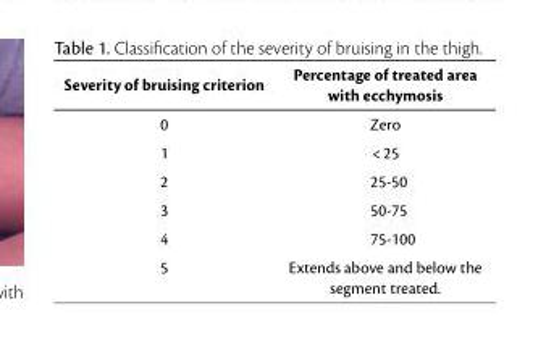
<table><thead><tr><td>Severity of bruising criterion</td><td>Percentage of treated area with ecchymosis</td></tr></thead><tbody><tr><td>0</td><td>Zero</td></tr><tr><td>1</td><td>&lt; 25</td></tr><tr><td>2</td><td>25-50</td></tr><tr><td>3</td><td>50-75</td></tr><tr><td>4</td><td>75-100</td></tr><tr><td>5</td><td>Extends above and below the segment treated.</td></tr></tbody></table>